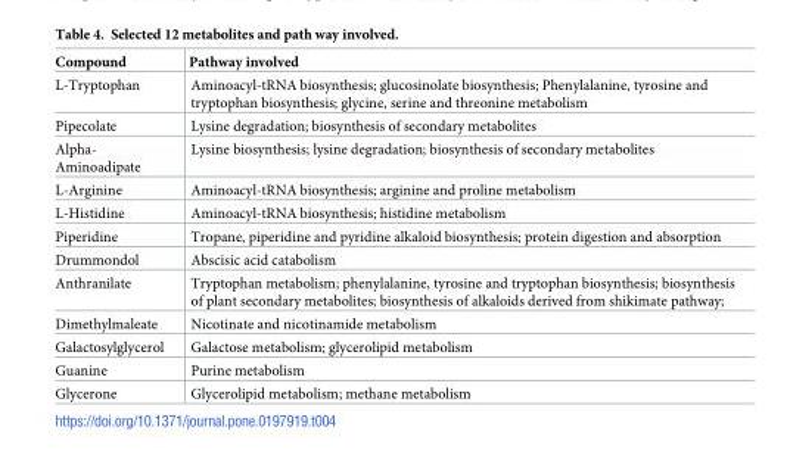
<table><thead><tr><td>Compound</td><td>Pathway involved</td></tr></thead><tbody><tr><td>L-Tryptophan</td><td>Aminoacyl-tRNA biosynthesis; glucosinolate biosynthesis; Phenylalanine, tyrosine and tryptophan biosynthesis; glycine, serine and threonine metabolism</td></tr><tr><td>Pipecolate</td><td>Lysine degradation; biosynthesis of secondary metabolites</td></tr><tr><td>Alpha- Aminoadipate</td><td>Lysine biosynthesis; lysine degradation; biosynthesis of secondary metabolites</td></tr><tr><td>L-Arginine</td><td>Aminoacyl-tRNA biosynthesis; arginine and proline metabolism</td></tr><tr><td>L-Histidine</td><td>Aminoacyl-tRNA biosynthesis; histidine metabolism</td></tr><tr><td>Piperidine</td><td>Tropane, piperidine and pyridine alkaloid biosynthesis; protein digestion and absorption</td></tr><tr><td>Drummondol</td><td>Abscisic acid catabolism</td></tr><tr><td>Anthranilate</td><td>Tryptophan metabolism; phenylalanine, tyrosine and tryptophan biosynthesis; biosynthesis of plant secondary metabolites; biosynthesis of alkaloids derived from shikimate pathway;</td></tr><tr><td>Dimethylmaleate</td><td>Nicotinate and nicotinamide metabolism</td></tr><tr><td>Galactosylglycerol</td><td>Galactose metabolism; glycerolipid metabolism</td></tr><tr><td>Guanine</td><td>Purine metabolism</td></tr><tr><td>Glycerone</td><td>Glycerolipid metabolism; methane metabolism</td></tr></tbody></table>